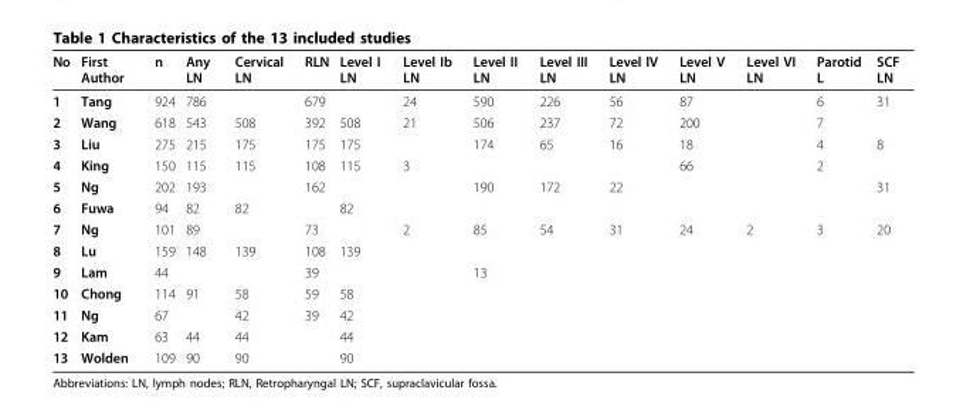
<table><thead><tr><td>No</td><td>First Author</td><td>n</td><td>Any LN</td><td>Cervical LN</td><td>RLN</td><td>Level I LN</td><td>Level Ib LN</td><td>Level II LN</td><td>Level III LN</td><td>Level lV LN</td><td>Level V LN</td><td>Level VI LN</td><td>Parotid L</td><td>SCF LN</td></tr></thead><tbody><tr><td>1</td><td>Tang</td><td>924</td><td>786</td><td></td><td>679</td><td></td><td>24</td><td>590</td><td>226</td><td>56</td><td>87</td><td></td><td>6</td><td>31</td></tr><tr><td>2</td><td>Wang</td><td>618</td><td>543</td><td>508</td><td>392</td><td>508</td><td>21</td><td>506</td><td>237</td><td>72</td><td>200</td><td></td><td>7</td><td></td></tr><tr><td>3</td><td>Liu</td><td>275</td><td>215</td><td>175</td><td>175</td><td>175</td><td></td><td>174</td><td>65</td><td>16</td><td>18</td><td></td><td>4</td><td>8</td></tr><tr><td>4</td><td>King</td><td>150</td><td>115</td><td>115</td><td>108</td><td>115</td><td>3</td><td></td><td></td><td></td><td>66</td><td></td><td>2</td><td></td></tr><tr><td>5</td><td>Ng</td><td>202</td><td>193</td><td></td><td>162</td><td></td><td></td><td>190</td><td>172</td><td>22</td><td></td><td></td><td></td><td>31</td></tr><tr><td>6</td><td>Fuwa</td><td>94</td><td>82</td><td>82</td><td></td><td>82</td><td></td><td></td><td></td><td></td><td></td><td></td><td></td><td></td></tr><tr><td>7</td><td>Ng</td><td>101</td><td>89</td><td></td><td>73</td><td></td><td>2</td><td>85</td><td>54</td><td>31</td><td>24</td><td>2</td><td>3</td><td>20</td></tr><tr><td>8</td><td>Lu</td><td>159</td><td>148</td><td>139</td><td>108</td><td>139</td><td></td><td></td><td></td><td></td><td></td><td></td><td></td><td></td></tr><tr><td>9</td><td>Lam</td><td>44</td><td></td><td></td><td>39</td><td></td><td></td><td>13</td><td></td><td></td><td></td><td></td><td></td><td></td></tr><tr><td>10</td><td>Chong</td><td>114</td><td>91</td><td>58</td><td>59</td><td>58</td><td></td><td></td><td></td><td></td><td></td><td></td><td></td><td></td></tr><tr><td>11</td><td>Ng</td><td>67</td><td></td><td>42</td><td>39</td><td>42</td><td></td><td></td><td></td><td></td><td></td><td></td><td></td><td></td></tr><tr><td>12</td><td>Kam</td><td>63</td><td>44</td><td>44</td><td></td><td>44</td><td></td><td></td><td></td><td></td><td></td><td></td><td></td><td></td></tr><tr><td>13</td><td>Wolden</td><td>109</td><td>90</td><td>90</td><td></td><td>90</td><td></td><td></td><td></td><td></td><td></td><td></td><td></td><td></td></tr></tbody></table>